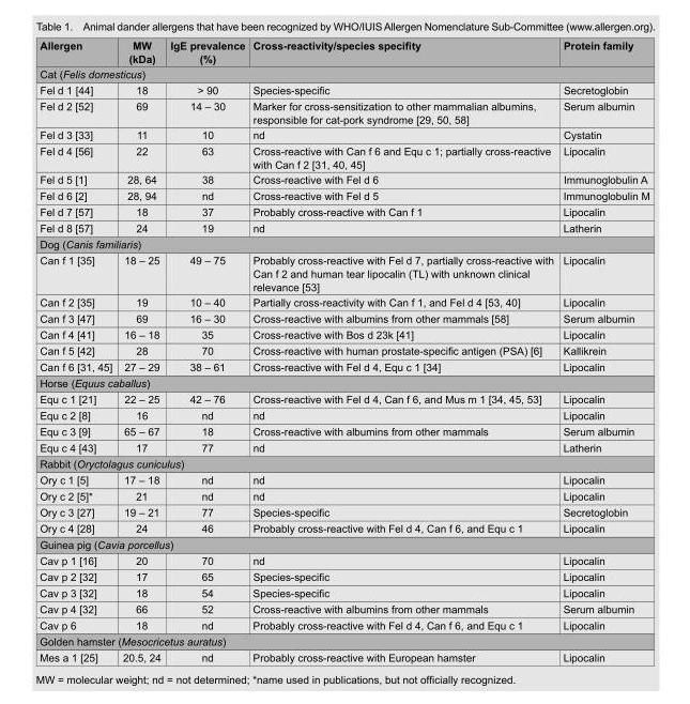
<table><thead><tr><td>Allergen</td><td>MW (kDa)</td><td>IgE prevalence (%)</td><td>Cross-reactivity/species specifity</td><td>Protein family</td></tr></thead><tbody><tr><td colspan="5">Cat (Felis domesticus)</td></tr><tr><td>Fel d 1 [44]</td><td>18</td><td>&gt; 90</td><td>Species-specific</td><td>Secretoglobin</td></tr><tr><td>Fel d 2 [52]</td><td>69</td><td>14 – 30</td><td>Marker for cross-sensitization to other mammalian albumins, responsible for cat-pork syndrome [29, 50, 58]</td><td>Serum albumin</td></tr><tr><td>Fel d 3 [33]</td><td>11</td><td>10</td><td>nd</td><td>Cystatin</td></tr><tr><td>Fel d 4 [56]</td><td>22</td><td>63</td><td>Cross-reactive with Can f 6 and Equ c 1; partially cross-reactive with Can f 2 [31, 40, 45]</td><td>Lipocalin</td></tr><tr><td>Fel d 5 [1]</td><td>28, 64</td><td>38</td><td>Cross-reactive with Fel d 6</td><td>Immunoglobulin A</td></tr><tr><td>Fel d 6 [2]</td><td>28, 94</td><td>nd</td><td>Cross-reactive with Fel d 5</td><td>Immunoglobulin M</td></tr><tr><td>Fel d 7 [57]</td><td>18</td><td>37</td><td>Probably cross-reactive with Can f 1</td><td>Lipocalin</td></tr><tr><td>Fel d 8 [57]</td><td>24</td><td>19</td><td>nd</td><td>Latherin</td></tr><tr><td colspan="5">Dog (Canis familiaris)</td></tr><tr><td>Can f 1 [35]</td><td>18 – 25</td><td>49 – 75</td><td>Probably cross-reactive with Fel d 7, partially cross-reactive with Can f 2 and human tear lipocalin (TL) with unknown clinical relevance [53]</td><td>Lipocalin</td></tr><tr><td>Can f 2 [35]</td><td>19</td><td>10 – 40</td><td>Partially cross-reactivity with Can f 1, and Fel d 4 [53, 40]</td><td>Lipocalin</td></tr><tr><td>Can f 3 [47]</td><td>69</td><td>16 – 30</td><td>Cross-reactive with albumins from other mammals [58]</td><td>Serum albumin</td></tr><tr><td>Can f 4 [41]</td><td>16 – 18</td><td>35</td><td>Cross-reactive with Bos d 23k [41]</td><td>Lipocalin</td></tr><tr><td>Can f 5 [42]</td><td>28</td><td>70</td><td>Cross-reactive with human prostate-specific antigen (PSA) [6]</td><td>Kallikrein</td></tr><tr><td>Can f 6 [31, 45]</td><td>27 – 29</td><td>38 – 61</td><td>Cross-reactive with Fel d 4, Equ c 1 [34]</td><td>Lipocalin</td></tr><tr><td colspan="5">Horse (Equus caballus)</td></tr><tr><td>Equ c 1 [21]</td><td>22 – 25</td><td>42 – 76</td><td>Cross-reactive with Fel d 4, Can f 6, and Mus m 1 [34, 45, 53]</td><td>Lipocalin</td></tr><tr><td>Equ c 2 [8]</td><td>16</td><td>nd</td><td>nd</td><td>Lipocalin</td></tr><tr><td>Equ c 3 [9]</td><td>65 – 67</td><td>18</td><td>Cross-reactive with albumins from other mammals</td><td>Serum albumin</td></tr><tr><td>Equ c 4 [43]</td><td>17</td><td>77</td><td>nd</td><td>Latherin</td></tr><tr><td colspan="5">Rabbit (Oryctolagus cuniculus)</td></tr><tr><td>Ory c 1 [5]</td><td>17 – 18</td><td>nd</td><td>nd</td><td>Lipocalin</td></tr><tr><td>Ory c 2 [5]*</td><td>21</td><td>nd</td><td>nd</td><td>Lipocalin</td></tr><tr><td>Ory c 3 [27]</td><td>19 – 21</td><td>77</td><td>Species-specific</td><td>Secretoglobin</td></tr><tr><td>Ory c 4 [28]</td><td>24</td><td>46</td><td>Probably cross-reactive with Fel d 4, Can f 6, and Equ c 1</td><td>Lipocalin</td></tr><tr><td colspan="5">Guinea pig (Cavia porcellus)</td></tr><tr><td>Cav p 1 [16]</td><td>20</td><td>70</td><td>nd</td><td>Lipocalin</td></tr><tr><td>Cav p 2 [32]</td><td>17</td><td>65</td><td>Species-specific</td><td>Lipocalin</td></tr><tr><td>Cav p 3 [32]</td><td>18</td><td>54</td><td>Species-specific</td><td>Lipocalin</td></tr><tr><td>Cav p 4 [32]</td><td>66</td><td>52</td><td>Cross-reactive with albumins from other mammals</td><td>Serum albumin</td></tr><tr><td>Cav p 6</td><td>18</td><td>nd</td><td>Probably cross-reactive with Fel d 4, Can f 6, and Equ c 1</td><td>Lipocalin</td></tr><tr><td colspan="5">Golden hamster (Mesocricetus auratus)</td></tr><tr><td>Mes a 1 [25]</td><td>20.5, 24</td><td>nd</td><td>Probably cross-reactive with European hamster</td><td>Lipocalin</td></tr></tbody></table>